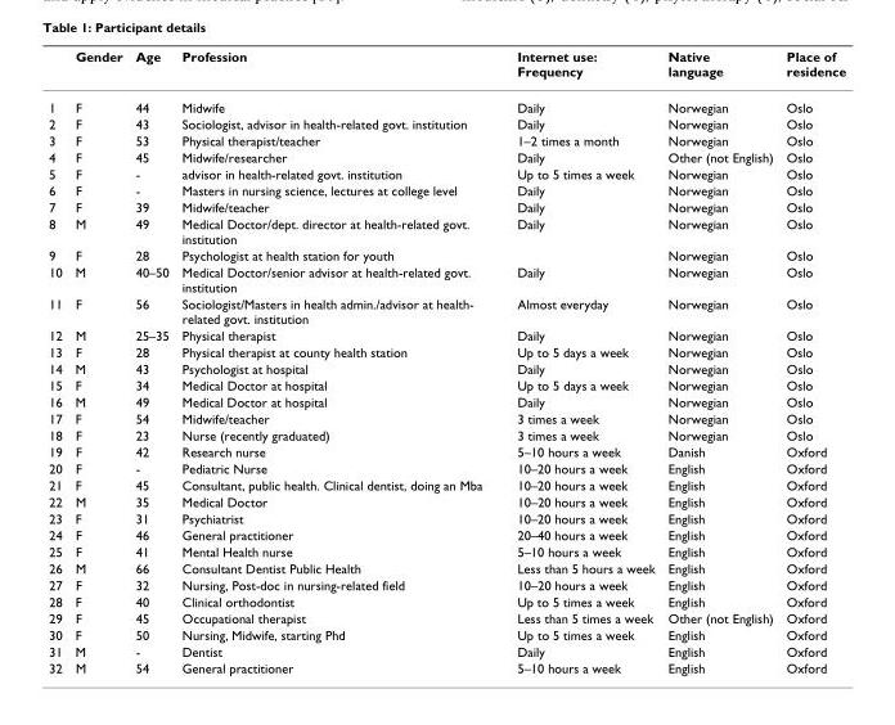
<table><thead><tr><td></td><td>Gender</td><td>Age</td><td>Profession</td><td>Internet use: Frequency</td><td>Native language</td><td>Place of residence</td></tr></thead><tbody><tr><td>1</td><td>F</td><td>44</td><td>Midwife</td><td>Daily</td><td>Norwegian</td><td>Oslo</td></tr><tr><td>2</td><td>F</td><td>43</td><td>Sociologist, advisor in health-related govt. institution</td><td>Daily</td><td>Norwegian</td><td>Oslo</td></tr><tr><td>3</td><td>F</td><td>53</td><td>Physical therapist/teacher</td><td>1–2 times a month</td><td>Norwegian</td><td>Oslo</td></tr><tr><td>4</td><td>F</td><td>45</td><td>Midwife/researcher</td><td>Daily</td><td>Other (not English)</td><td>Oslo</td></tr><tr><td>5</td><td>F</td><td>-</td><td>advisor in health-related govt. institution</td><td>Up to 5 times a week</td><td>Norwegian</td><td>Oslo</td></tr><tr><td>6</td><td>F</td><td>-</td><td>Masters in nursing science, lectures at college level</td><td>Daily</td><td>Norwegian</td><td>Oslo</td></tr><tr><td>7</td><td>F</td><td>39</td><td>Midwife/teacher</td><td>Daily</td><td>Norwegian</td><td>Oslo</td></tr><tr><td>8</td><td>M</td><td>49</td><td>Medical Doctor/dept. director at health-related govt. institution</td><td>Daily</td><td>Norwegian</td><td>Oslo</td></tr><tr><td>9</td><td>F</td><td>28</td><td>Psychologist at health station for youth</td><td></td><td>Norwegian</td><td>Oslo</td></tr><tr><td>10</td><td>M</td><td>40–50</td><td>Medical Doctor/senior advisor at health-related govt. institution</td><td>Daily</td><td>Norwegian</td><td>Oslo</td></tr><tr><td>11</td><td>F</td><td>56</td><td>Sociologist/Masters in health admin./advisor at health- related govt. institution</td><td>Almost everyday</td><td>Norwegian</td><td>Oslo</td></tr><tr><td>12</td><td>M</td><td>25–35</td><td>Physical therapist</td><td>Daily</td><td>Norwegian</td><td>Oslo</td></tr><tr><td>13</td><td>F</td><td>28</td><td>Physical therapist at county health station</td><td>Up to 5 days a week</td><td>Norwegian</td><td>Oslo</td></tr><tr><td>14</td><td>M</td><td>43</td><td>Psychologist at hospital</td><td>Daily</td><td>Norwegian</td><td>Oslo</td></tr><tr><td>15</td><td>F</td><td>34</td><td>Medical Doctor at hospital</td><td>Up to 5 days a week</td><td>Norwegian</td><td>Oslo</td></tr><tr><td>16</td><td>M</td><td>49</td><td>Medical Doctor at hospital</td><td>Daily</td><td>Norwegian</td><td>Oslo</td></tr><tr><td>17</td><td>F</td><td>54</td><td>Midwife/teacher</td><td>3 times a week</td><td>Norwegian</td><td>Oslo</td></tr><tr><td>18</td><td>F</td><td>23</td><td>Nurse (recently graduated)</td><td>3 times a week</td><td>Norwegian</td><td>Oslo</td></tr><tr><td>19</td><td>F</td><td>42</td><td>Research nurse</td><td>5–10 hours a week</td><td>Danish</td><td>Oxford</td></tr><tr><td>20</td><td>F</td><td>-</td><td>Pediatric Nurse</td><td>10–20 hours a week</td><td>English</td><td>Oxford</td></tr><tr><td>21</td><td>F</td><td>45</td><td>Consultant, public health. Clinical dentist, doing an Mba</td><td>10–20 hours a week</td><td>English</td><td>Oxford</td></tr><tr><td>22</td><td>M</td><td>35</td><td>Medical Doctor</td><td>10–20 hours a week</td><td>English</td><td>Oxford</td></tr><tr><td>23</td><td>F</td><td>31</td><td>Psychiatrist</td><td>10–20 hours a week</td><td>English</td><td>Oxford</td></tr><tr><td>24</td><td>F</td><td>46</td><td>General practitioner</td><td>20–40 hours a week</td><td>English</td><td>Oxford</td></tr><tr><td>25</td><td>F</td><td>41</td><td>Mental Health nurse</td><td>5–10 hours a week</td><td>English</td><td>Oxford</td></tr><tr><td>26</td><td>M</td><td>66</td><td>Consultant Dentist Public Health</td><td>Less than 5 hours a week</td><td>English</td><td>Oxford</td></tr><tr><td>27</td><td>F</td><td>32</td><td>Nursing, Post-doc in nursing-related field</td><td>10–20 hours a week</td><td>English</td><td>Oxford</td></tr><tr><td>28</td><td>F</td><td>40</td><td>Clinical orthodontist</td><td>Up to 5 times a week</td><td>English</td><td>Oxford</td></tr><tr><td>29</td><td>F</td><td>45</td><td>Occupational therapist</td><td>Less than 5 times a week</td><td>Other (not English)</td><td>Oxford</td></tr><tr><td>30</td><td>F</td><td>50</td><td>Nursing, Midwife, starting Phd</td><td>Up to 5 times a week</td><td>English</td><td>Oxford</td></tr><tr><td>31</td><td>M</td><td>-</td><td>Dentist</td><td>Daily</td><td>English</td><td>Oxford</td></tr><tr><td>32</td><td>M</td><td>54</td><td>General practitioner</td><td>5–10 hours a week</td><td>English</td><td>Oxford</td></tr></tbody></table>